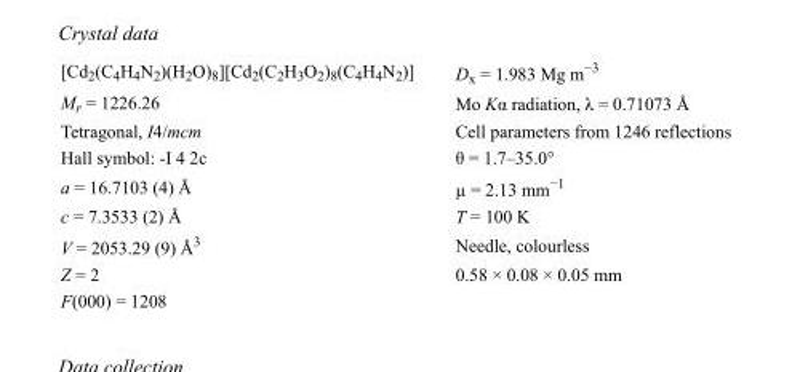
<table><tbody><tr><td>[Cd<sub>2</sub>(C<sub>4</sub>H<sub>4</sub>N<sub>2</sub>)(H<sub>2</sub>O)<sub>8</sub>][Cd<sub>2</sub>(C<sub>2</sub>H<sub>3</sub>O<sub>2</sub>)<sub>8</sub>(C<sub>4</sub>H<sub>4</sub>N<sub>2</sub>)]</td><td>D<sub>x</sub> = 1.983 Mg m<sup>−3</sup></td></tr><tr><td>M<sub>r</sub> = 1226.26</td><td>Mo Kα radiation, λ = 0.71073 Å</td></tr><tr><td>Tetragonal, I4/mcm</td><td>Cell parameters from 1246 reflections</td></tr><tr><td>Hall symbol: -I 4 2c</td><td>θ = 1.7–35.0°</td></tr><tr><td>a = 16.7103 (4) Å</td><td>µ = 2.13 mm<sup>−1</sup></td></tr><tr><td>c = 7.3533 (2) Å</td><td>T = 100 K</td></tr><tr><td>V = 2053.29 (9) Å<sup>3</sup></td><td>Needle, colourless</td></tr><tr><td>Z = 2</td><td>0.58 × 0.08 × 0.05 mm</td></tr><tr><td>F(000) = 1208</td><td></td></tr></tbody></table>